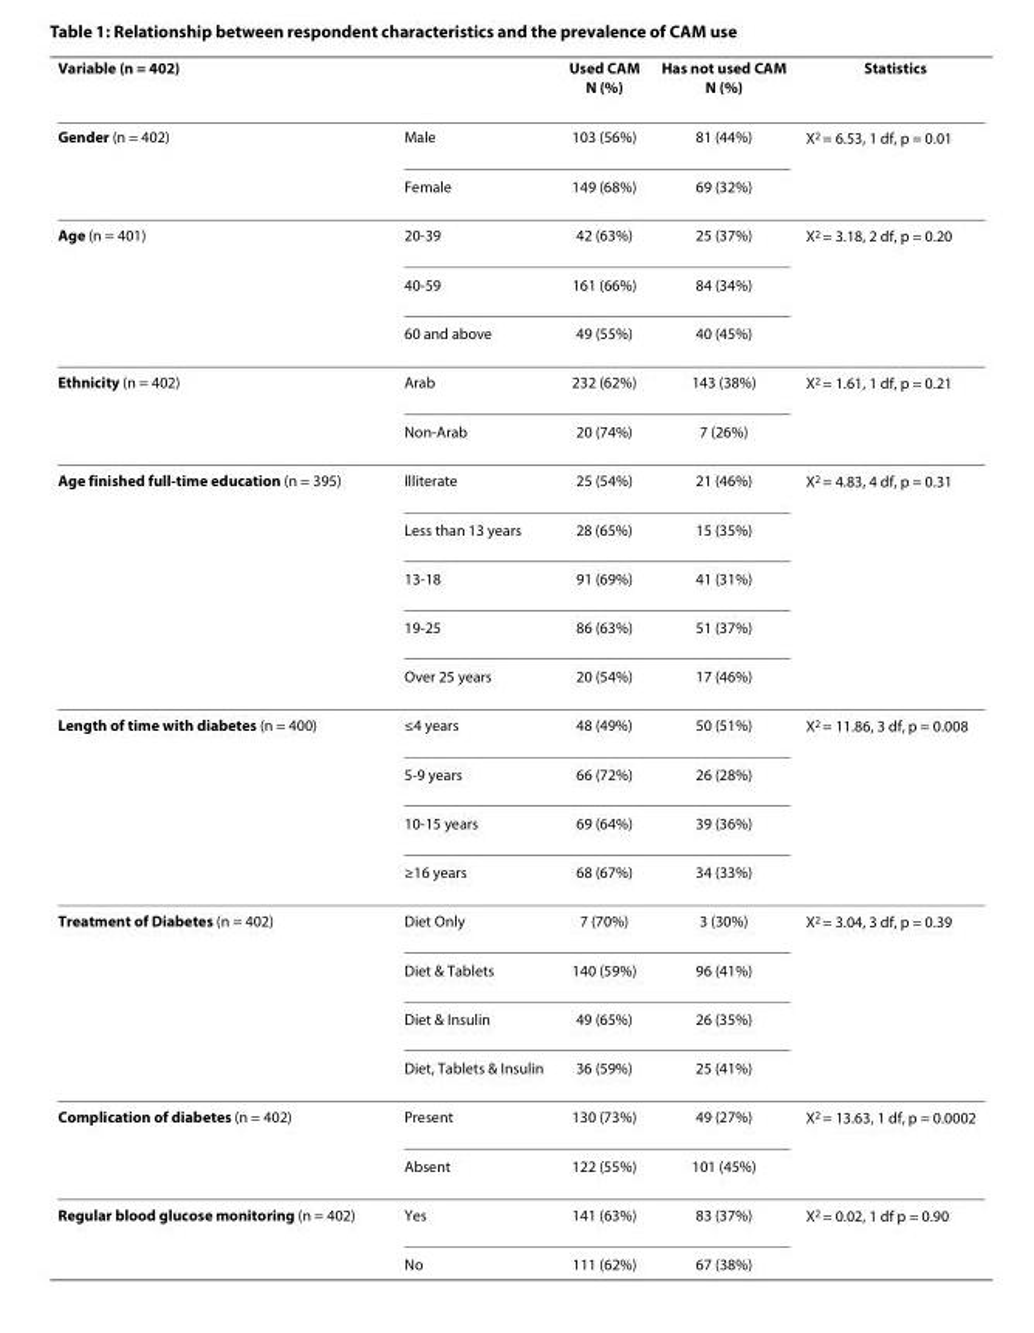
<table><thead><tr><td>Variable (n = 402)</td><td></td><td>Used CAM N (%)</td><td>Has not used CAM N (%)</td><td>Statistics</td></tr></thead><tbody><tr><td rowspan="2">Gender (n = 402)</td><td>Male</td><td>103 (56%)</td><td>81 (44%)</td><td>X<sup>2</sup> = 6.53, 1 df, p = 0.01</td></tr><tr><td>Female</td><td>149 (68%)</td><td>69 (32%)</td><td></td></tr><tr><td rowspan="3">Age (n = 401)</td><td>20-39</td><td>42 (63%)</td><td>25 (37%)</td><td>X<sup>2</sup> = 3.18, 2 df, p = 0.20</td></tr><tr><td>40-59</td><td>161 (66%)</td><td>84 (34%)</td><td></td></tr><tr><td>60 and above</td><td>49 (55%)</td><td>40 (45%)</td><td></td></tr><tr><td rowspan="2">Ethnicity (n = 402)</td><td>Arab</td><td>232 (62%)</td><td>143 (38%)</td><td>X<sup>2</sup> = 1.61, 1 df, p = 0.21</td></tr><tr><td>Non-Arab</td><td>20 (74%)</td><td>7 (26%)</td><td></td></tr><tr><td rowspan="5">Age finished full-time education (n = 395)</td><td>Illiterate</td><td>25 (54%)</td><td>21 (46%)</td><td>X<sup>2</sup> = 4.83, 4 df, p = 0.31</td></tr><tr><td>Less than 13 years</td><td>28 (65%)</td><td>15 (35%)</td><td></td></tr><tr><td>13-18</td><td>91 (69%)</td><td>41 (31%)</td><td></td></tr><tr><td>19-25</td><td>86 (63%)</td><td>51 (37%)</td><td></td></tr><tr><td>Over 25 years</td><td>20 (54%)</td><td>17 (46%)</td><td></td></tr><tr><td rowspan="4">Length of time with diabetes (n = 400)</td><td>≤4 years</td><td>48 (49%)</td><td>50 (51%)</td><td>X<sup>2</sup> = 11.86, 3 df, p = 0.008</td></tr><tr><td>5-9 years</td><td>66 (72%)</td><td>26 (28%)</td><td></td></tr><tr><td>10-15 years</td><td>69 (64%)</td><td>39 (36%)</td><td></td></tr><tr><td>≥16 years</td><td>68 (67%)</td><td>34 (33%)</td><td></td></tr><tr><td rowspan="4">Treatment of Diabetes (n = 402)</td><td>Diet Only</td><td>7 (70%)</td><td>3 (30%)</td><td>X<sup>2</sup> = 3.04, 3 df, p = 0.39</td></tr><tr><td>Diet &amp; Tablets</td><td>140 (59%)</td><td>96 (41%)</td><td></td></tr><tr><td>Diet &amp; Insulin</td><td>49 (65%)</td><td>26 (35%)</td><td></td></tr><tr><td>Diet, Tablets &amp; Insulin</td><td>36 (59%)</td><td>25 (41%)</td><td></td></tr><tr><td rowspan="2">Complication of diabetes (n = 402)</td><td>Present</td><td>130 (73%)</td><td>49 (27%)</td><td>X<sup>2</sup> = 13.63, 1 df, p = 0.0002</td></tr><tr><td>Absent</td><td>122 (55%)</td><td>101 (45%)</td><td></td></tr><tr><td rowspan="2">Regular blood glucose monitoring (n = 402)</td><td>Yes</td><td>141 (63%)</td><td>83 (37%)</td><td>X<sup>2</sup> = 0.02, 1 df p = 0.90</td></tr><tr><td>No</td><td>111 (62%)</td><td>67 (38%)</td><td></td></tr></tbody></table>